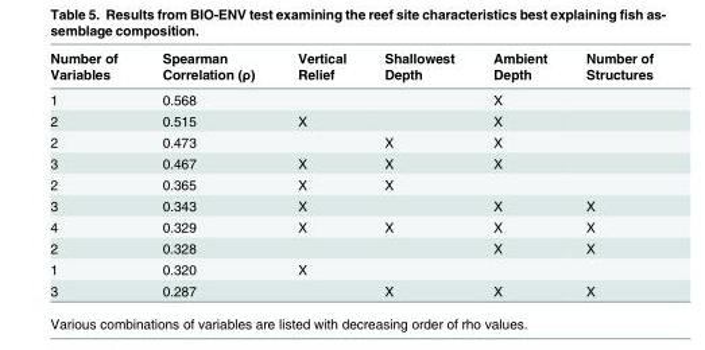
<table><thead><tr><td>Number of Variables</td><td>Spearman Correlation (ρ)</td><td>Vertical Relief</td><td>Shallowest Depth</td><td>Ambient Depth</td><td>Number of Structures</td></tr></thead><tbody><tr><td>1</td><td>0.568</td><td></td><td></td><td>X</td><td></td></tr><tr><td>2</td><td>0.515</td><td>X</td><td></td><td>X</td><td></td></tr><tr><td>2</td><td>0.473</td><td></td><td>X</td><td>X</td><td></td></tr><tr><td>3</td><td>0.467</td><td>X</td><td>X</td><td>X</td><td></td></tr><tr><td>2</td><td>0.365</td><td>X</td><td>X</td><td></td><td></td></tr><tr><td>3</td><td>0.343</td><td>X</td><td></td><td>X</td><td>X</td></tr><tr><td>4</td><td>0.329</td><td>X</td><td>X</td><td>X</td><td>X</td></tr><tr><td>2</td><td>0.328</td><td></td><td></td><td>X</td><td>X</td></tr><tr><td>1</td><td>0.320</td><td>X</td><td></td><td></td><td></td></tr><tr><td>3</td><td>0.287</td><td></td><td>X</td><td>X</td><td>X</td></tr></tbody></table>